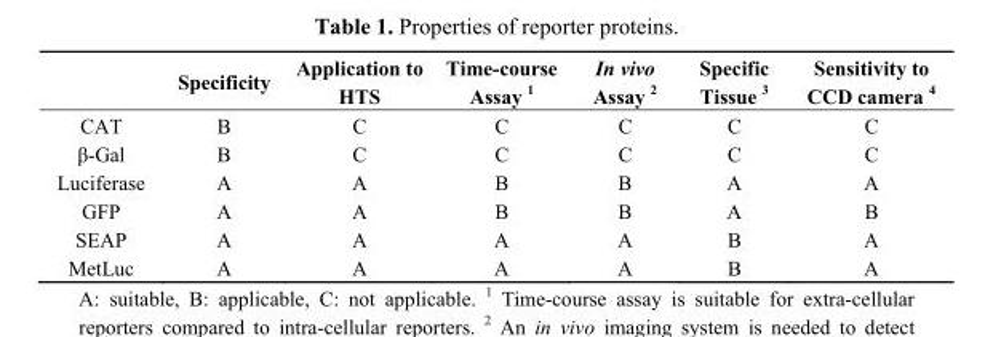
<table><thead><tr><td></td><td>Specificity</td><td>Application to HTS</td><td>Time-course Assay <sup>1</sup></td><td>In vivo Assay <sup>2</sup></td><td>Specific Tissue <sup>3</sup></td><td>Sensitivity to CCD camera <sup>4</sup></td></tr></thead><tbody><tr><td>CAT</td><td>B</td><td>C</td><td>C</td><td>C</td><td>C</td><td>C</td></tr><tr><td>β-Gal</td><td>B</td><td>C</td><td>C</td><td>C</td><td>C</td><td>C</td></tr><tr><td>Luciferase</td><td>A</td><td>A</td><td>B</td><td>B</td><td>A</td><td>A</td></tr><tr><td>GFP</td><td>A</td><td>A</td><td>B</td><td>B</td><td>A</td><td>B</td></tr><tr><td>SEAP</td><td>A</td><td>A</td><td>A</td><td>A</td><td>B</td><td>A</td></tr><tr><td>MetLuc</td><td>A</td><td>A</td><td>A</td><td>A</td><td>B</td><td>A</td></tr></tbody></table>